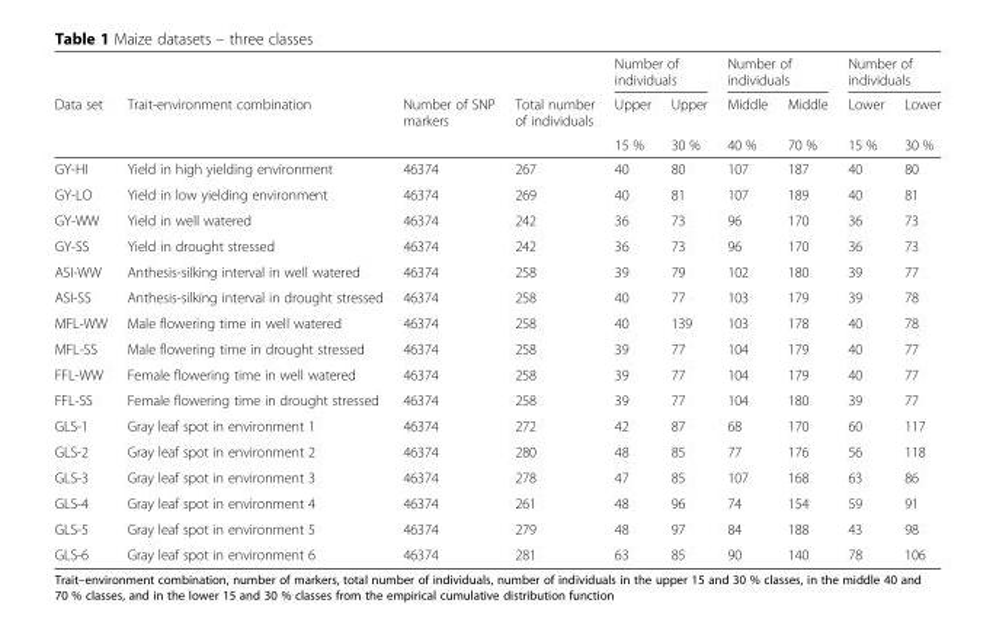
<table><thead><tr><td rowspan="3">Data set</td><td rowspan="3">Trait-environment combination</td><td rowspan="3">Number of SNP markers</td><td rowspan="3">Total number of individuals</td><td colspan="2">Number of individuals</td><td colspan="2">Number of individuals</td><td colspan="2">Number of individuals</td></tr><tr><td rowspan="2">Upper 15 %</td><td rowspan="2">Upper 30 %</td><td rowspan="2">Middle 40 %</td><td rowspan="2">Middle 70 %</td><td rowspan="2">Lower 15 %</td><td rowspan="2">Lower 30 %</td></tr><tr></tr></thead><tbody><tr><td>GY-HI</td><td>Yield in high yielding environment</td><td>46374</td><td>267</td><td>40</td><td>80</td><td>107</td><td>187</td><td>40</td><td>80</td></tr><tr><td>GY-LO</td><td>Yield in low yielding environment</td><td>46374</td><td>269</td><td>40</td><td>81</td><td>107</td><td>189</td><td>40</td><td>81</td></tr><tr><td>GY-WW</td><td>Yield in well watered</td><td>46374</td><td>242</td><td>36</td><td>73</td><td>96</td><td>170</td><td>36</td><td>73</td></tr><tr><td>GY-SS</td><td>Yield in drought stressed</td><td>46374</td><td>242</td><td>36</td><td>73</td><td>96</td><td>170</td><td>36</td><td>73</td></tr><tr><td>ASI-WW</td><td>Anthesis-silking interval in well watered</td><td>46374</td><td>258</td><td>39</td><td>79</td><td>102</td><td>180</td><td>39</td><td>77</td></tr><tr><td>ASI-SS</td><td>Anthesis-silking interval in drought stressed</td><td>46374</td><td>258</td><td>40</td><td>77</td><td>103</td><td>179</td><td>39</td><td>78</td></tr><tr><td>MFL-WW</td><td>Male flowering time in well watered</td><td>46374</td><td>258</td><td>40</td><td>139</td><td>103</td><td>178</td><td>40</td><td>78</td></tr><tr><td>MFL-SS</td><td>Male flowering time in drought stressed</td><td>46374</td><td>258</td><td>39</td><td>77</td><td>104</td><td>179</td><td>40</td><td>77</td></tr><tr><td>FFL-WW</td><td>Female flowering time in well watered</td><td>46374</td><td>258</td><td>39</td><td>77</td><td>104</td><td>179</td><td>40</td><td>77</td></tr><tr><td>FFL-SS</td><td>Female flowering time in drought stressed</td><td>46374</td><td>258</td><td>39</td><td>77</td><td>104</td><td>180</td><td>39</td><td>77</td></tr><tr><td>GLS-1</td><td>Gray leaf spot in environment 1</td><td>46374</td><td>272</td><td>42</td><td>87</td><td>68</td><td>170</td><td>60</td><td>117</td></tr><tr><td>GLS-2</td><td>Gray leaf spot in environment 2</td><td>46374</td><td>280</td><td>48</td><td>85</td><td>77</td><td>176</td><td>56</td><td>118</td></tr><tr><td>GLS-3</td><td>Gray leaf spot in environment 3</td><td>46374</td><td>278</td><td>47</td><td>85</td><td>107</td><td>168</td><td>63</td><td>86</td></tr><tr><td>GLS-4</td><td>Gray leaf spot in environment 4</td><td>46374</td><td>261</td><td>48</td><td>96</td><td>74</td><td>154</td><td>59</td><td>91</td></tr><tr><td>GLS-5</td><td>Gray leaf spot in environment 5</td><td>46374</td><td>279</td><td>48</td><td>97</td><td>84</td><td>188</td><td>43</td><td>98</td></tr><tr><td>GLS-6</td><td>Gray leaf spot in environment 6</td><td>46374</td><td>281</td><td>63</td><td>85</td><td>90</td><td>140</td><td>78</td><td>106</td></tr></tbody></table>